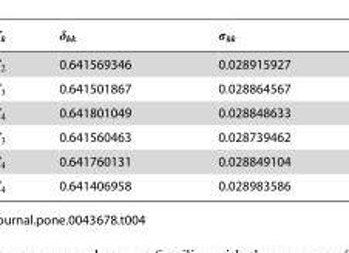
<table><tbody><tr><td>0.641569346</td><td>0.028915927</td></tr><tr><td>0.641501867</td><td>0.028864567</td></tr><tr><td>0.641801049</td><td>0.028848633</td></tr><tr><td>0.641560463</td><td>0.028739462</td></tr><tr><td>0.641760131</td><td>0.028849104</td></tr><tr><td>0.641406958</td><td>0.028983586</td></tr></tbody></table>